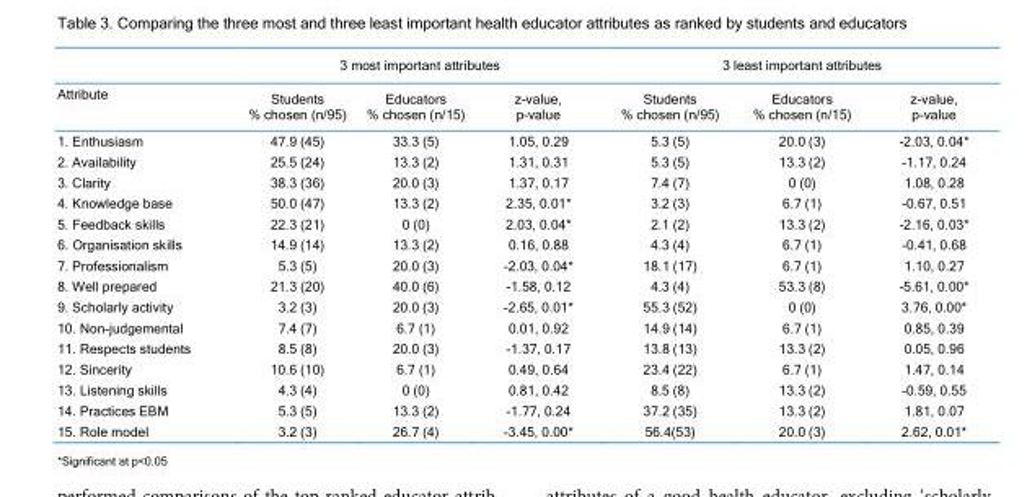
<table><thead><tr><td rowspan="2">Attribute</td><td colspan="3">3 most important attributes</td><td colspan="3">3 least important attributes</td></tr><tr><td>Students % chosen (n/95)</td><td>Educators % chosen (n/15)</td><td>z-value, p-value</td><td>Students % chosen (n/95)</td><td>Educators % chosen (n/15)</td><td>z-value, p-value</td></tr></thead><tbody><tr><td>1. Enthusiasm</td><td>47.9 (45)</td><td>33.3 (5)</td><td>1.05, 0.29</td><td>5.3 (5)</td><td>20.0 (3)</td><td>-2.03, 0.04*</td></tr><tr><td>2. Availability</td><td>25.5 (24)</td><td>13.3 (2)</td><td>1.31, 0.31</td><td>5.3 (5)</td><td>13.3 (2)</td><td>-1.17, 0.24</td></tr><tr><td>3. Clarity</td><td>38.3 (36)</td><td>20.0 (3)</td><td>1.37, 0.17</td><td>7.4 (7)</td><td>0 (0)</td><td>1.08, 0.28</td></tr><tr><td>4. Knowledge base</td><td>50.0 (47)</td><td>13.3 (2)</td><td>2.35, 0.01*</td><td>3.2 (3)</td><td>6.7 (1)</td><td>-0.67, 0.51</td></tr><tr><td>5. Feedback skills</td><td>22.3 (21)</td><td>0 (0)</td><td>2.03, 0.04*</td><td>2.1 (2)</td><td>13.3 (2)</td><td>-2.16, 0.03*</td></tr><tr><td>6. Organisation skills</td><td>14.9 (14)</td><td>13.3 (2)</td><td>0.16, 0.88</td><td>4.3 (4)</td><td>6.7 (1)</td><td>-0.41, 0.68</td></tr><tr><td>7. Professionalism</td><td>5.3 (5)</td><td>20.0 (3)</td><td>-2.03, 0.04*</td><td>18.1 (17)</td><td>6.7 (1)</td><td>1.10, 0.27</td></tr><tr><td>8. Well prepared</td><td>21.3 (20)</td><td>40.0 (6)</td><td>-1.58, 0.12</td><td>4.3 (4)</td><td>53.3 (8)</td><td>-5.61, 0.00*</td></tr><tr><td>9. Scholarly activity</td><td>3.2 (3)</td><td>20.0 (3)</td><td>-2.65, 0.01*</td><td>55.3 (52)</td><td>0 (0)</td><td>3.76, 0.00*</td></tr><tr><td>10. Non-judgemental</td><td>7.4 (7)</td><td>6.7 (1)</td><td>0.01, 0.92</td><td>14.9 (14)</td><td>6.7 (1)</td><td>0.85, 0.39</td></tr><tr><td>11. Respects students</td><td>8.5 (8)</td><td>20.0 (3)</td><td>-1.37, 0.17</td><td>13.8 (13)</td><td>13.3 (2)</td><td>0.05, 0.96</td></tr><tr><td>12. Sincerity</td><td>10.6 (10)</td><td>6.7 (1)</td><td>0.49, 0.64</td><td>23.4 (22)</td><td>6.7 (1)</td><td>1.47, 0.14</td></tr><tr><td>13. Listening skills</td><td>4.3 (4)</td><td>0 (0)</td><td>0.81, 0.42</td><td>8.5 (8)</td><td>13.3 (2)</td><td>-0.59, 0.55</td></tr><tr><td>14. Practices EBM</td><td>5.3 (5)</td><td>13.3 (2)</td><td>-1.77, 0.24</td><td>37.2 (35)</td><td>13.3 (2)</td><td>1.81, 0.07</td></tr><tr><td>15. Role model</td><td>3.2 (3)</td><td>26.7 (4)</td><td>-3.45, 0.00*</td><td>56.4(53)</td><td>20.0 (3)</td><td>2.62, 0.01*</td></tr></tbody></table>